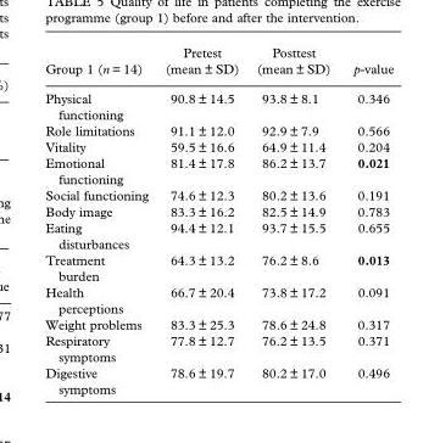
<table><thead><tr><td>Group 1 (n = 14)</td><td>Pretest (mean ± SD)</td><td>Posttest (mean ± SD)</td><td>p-value</td></tr></thead><tbody><tr><td>Physical functioning</td><td>90.8 ± 14.5</td><td>93.8 ± 8.1</td><td>0.346</td></tr><tr><td>Role limitations</td><td>91.1 ± 12.0</td><td>92.9 ± 7.9</td><td>0.566</td></tr><tr><td>Vitality</td><td>59.5 ± 16.6</td><td>64.9 ± 11.4</td><td>0.204</td></tr><tr><td>Emotional functioning</td><td>81.4 ± 17.8</td><td>86.2 ± 13.7</td><td>0.021</td></tr><tr><td>Social functioning</td><td>74.6 ± 12.3</td><td>80.2 ± 13.6</td><td>0.191</td></tr><tr><td>Body image</td><td>83.3 ± 16.2</td><td>82.5 ± 14.9</td><td>0.783</td></tr><tr><td>Eating disturbances</td><td>94.4 ± 12.1</td><td>93.7 ± 15.5</td><td>0.655</td></tr><tr><td>Treatment burden</td><td>64.3 ± 13.2</td><td>76.2 ± 8.6</td><td>0.013</td></tr><tr><td>Health perceptions</td><td>66.7 ± 20.4</td><td>73.8 ± 17.2</td><td>0.091</td></tr><tr><td>Weight problems</td><td>83.3 ± 25.3</td><td>78.6 ± 24.8</td><td>0.317</td></tr><tr><td>Respiratory symptoms</td><td>77.8 ± 12.7</td><td>76.2 ± 13.5</td><td>0.371</td></tr><tr><td>Digestive symptoms</td><td>78.6 ± 19.7</td><td>80.2 ± 17.0</td><td>0.496</td></tr></tbody></table>